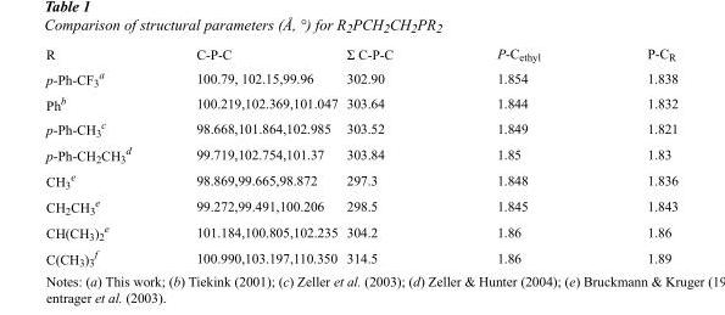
<table><tbody><tr><td>R</td><td>C-P-C</td><td>Σ C-P-C</td><td>P-C<sub>ethyl</sub></td><td>P-C<sub>R</sub></td></tr><tr><td>p-Ph-CF<sub>3</sub> <sup>a</sup></td><td>100.79, 102.15,99.96</td><td>302.90</td><td>1.854</td><td>1.838</td></tr><tr><td>Ph<sup>b</sup></td><td>100.219,102.369,101.047</td><td>303.64</td><td>1.844</td><td>1.832</td></tr><tr><td>p-Ph-CH<sub>3</sub> <sup>c</sup></td><td>98.668,101.864,102.985</td><td>303.52</td><td>1.849</td><td>1.821</td></tr><tr><td>p-Ph-CH<sub>2</sub>CH<sub>3</sub> <sup>d</sup></td><td>99.719,102.754,101.37</td><td>303.84</td><td>1.85</td><td>1.83</td></tr><tr><td>CH<sub>3</sub> <sup>e</sup></td><td>98.869,99.665,98.872</td><td>297.3</td><td>1.848</td><td>1.836</td></tr><tr><td>CH<sub>2</sub>CH<sub>3</sub> <sup>e</sup></td><td>99.272,99.491,100.206</td><td>298.5</td><td>1.845</td><td>1.843</td></tr><tr><td>CH(CH<sub>3</sub>)<sub>2</sub> <sup>e</sup></td><td>101.184,100.805,102.235</td><td>304.2</td><td>1.86</td><td>1.86</td></tr><tr><td>C(CH<sub>3</sub>)<sub>3</sub> <sup>f</sup></td><td>100.990,103.197,110.350</td><td>314.5</td><td>1.86</td><td>1.89</td></tr></tbody></table>